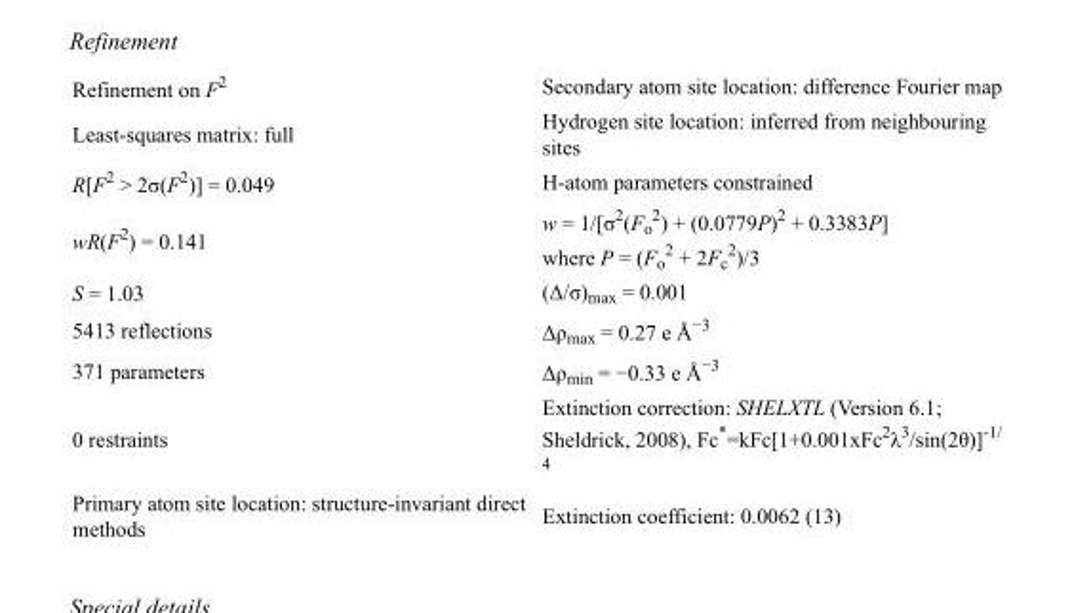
<table><tbody><tr><td>Refinement on F<sup>2</sup></td><td>Secondary atom site location: difference Fourier map</td></tr><tr><td>Least-squares matrix: full</td><td>Hydrogen site location: inferred from neighbouring sites</td></tr><tr><td>R[F<sup>2</sup> &gt; 2σ(F<sup>2</sup>)] = 0.049</td><td>H-atom parameters constrained</td></tr><tr><td>wR(F<sup>2</sup>) = 0.141</td><td>w = 1/[σ<sup>2</sup>(F<sub>o</sub> <sup>2</sup>) + (0.0779P)<sup>2</sup> + 0.3383P] where P = (F<sub>o</sub> <sup>2</sup> + 2F<sub>c</sub> <sup>2</sup>)/3</td></tr><tr><td>S = 1.03</td><td>(Δ/σ)<sub>max</sub> = 0.001</td></tr><tr><td>5413 reflections</td><td>Δρ<sub>max</sub> = 0.27 e Å<sup>−3</sup></td></tr><tr><td>371 parameters</td><td>Δρ<sub>min</sub> = −0.33 e Å<sup>−3</sup></td></tr><tr><td>0 restraints</td><td>Extinction correction: SHELXTL (Version 6.1; Sheldrick, 2008), Fc*=kFc[1+0.001xFc<sup>2</sup>λ<sup>3</sup>/sin(2θ)]<sup>-1/ 4</sup></td></tr><tr><td>Primary atom site location: structure-invariant direct methods</td><td>Extinction coefficient: 0.0062 (13)</td></tr></tbody></table>